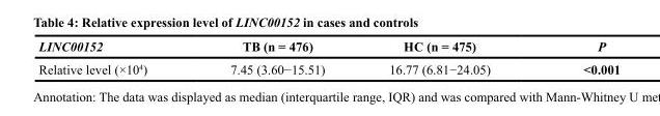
<table><thead><tr><td>LINC00152</td><td>TB (n = 476)</td><td>HC (n = 475)</td><td>P</td></tr></thead><tbody><tr><td>Relative level (×10<sup>4</sup>)</td><td>7.45 (3.60−15.51)</td><td>16.77 (6.81−24.05)</td><td>&lt;0.001</td></tr></tbody></table>